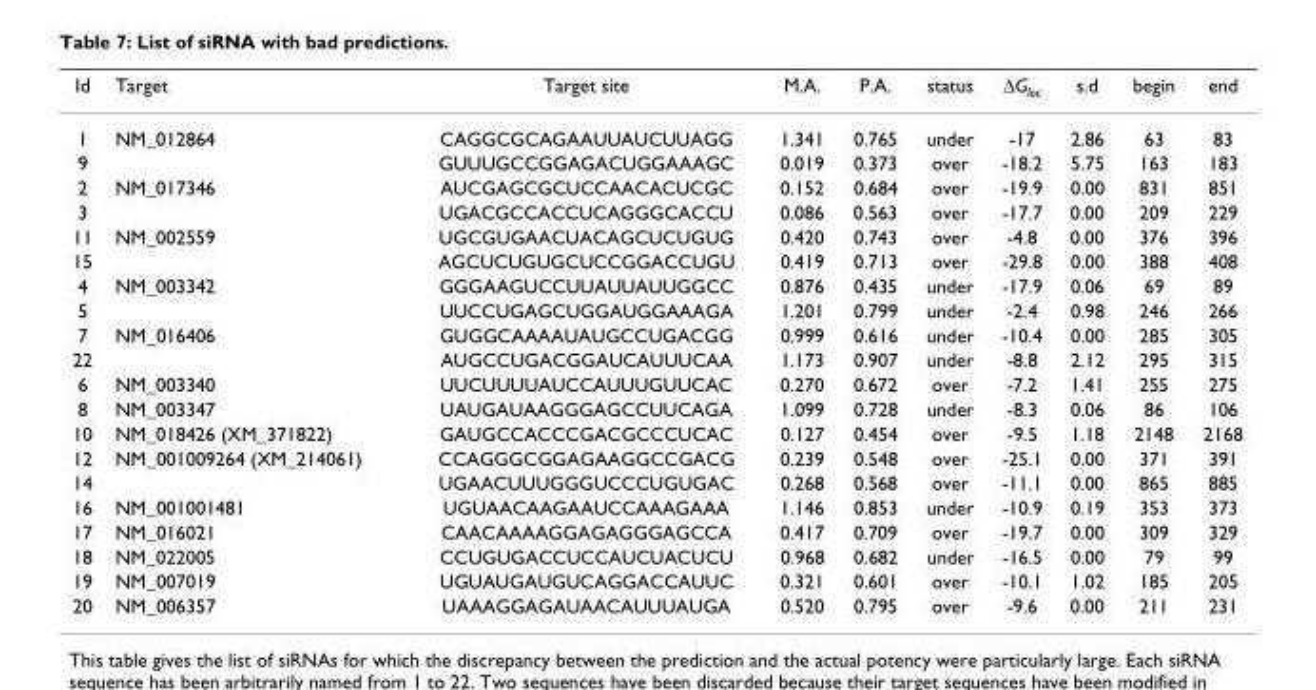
<table><thead><tr><td>Id</td><td>Target</td><td>Target site</td><td>M.A.</td><td>P.A.</td><td>status</td><td>∆Gloc</td><td>s.d</td><td>begin</td><td>end</td></tr></thead><tbody><tr><td>1</td><td>NM_012864</td><td>CAGGCGCAGAAUUAUCUUAGG</td><td>1.341</td><td>0.765</td><td>under</td><td>-17</td><td>2.86</td><td>63</td><td>83</td></tr><tr><td>9</td><td></td><td>GUUUGCCGGAGACUGGAAAGC</td><td>0.019</td><td>0.373</td><td>over</td><td>-18.2</td><td>5.75</td><td>163</td><td>183</td></tr><tr><td>2</td><td>NM_017346</td><td>AUCGAGCGCUCCAACACUCGC</td><td>0.152</td><td>0.684</td><td>over</td><td>-19.9</td><td>0.00</td><td>831</td><td>851</td></tr><tr><td>3</td><td></td><td>UGACGCCACCUCAGGGCACCU</td><td>0.086</td><td>0.563</td><td>over</td><td>-17.7</td><td>0.00</td><td>209</td><td>229</td></tr><tr><td>11</td><td>NM_002559</td><td>UGCGUGAACUACAGCUCUGUG</td><td>0.420</td><td>0.743</td><td>over</td><td>-4.8</td><td>0.00</td><td>376</td><td>396</td></tr><tr><td>15</td><td></td><td>AGCUCUGUGCUCCGGACCUGU</td><td>0.419</td><td>0.713</td><td>over</td><td>-29.8</td><td>0.00</td><td>388</td><td>408</td></tr><tr><td>4</td><td>NM_003342</td><td>GGGAAGUCCUUAUUAUUGGCC</td><td>0.876</td><td>0.435</td><td>under</td><td>-17.9</td><td>0.06</td><td>69</td><td>89</td></tr><tr><td>5</td><td></td><td>UUCCUGAGCUGGAUGGAAAGA</td><td>1.201</td><td>0.799</td><td>under</td><td>-2.4</td><td>0.98</td><td>246</td><td>266</td></tr><tr><td>7</td><td>NM_016406</td><td>GUGGCAAAAUAUGCCUGACGG</td><td>0.999</td><td>0.616</td><td>under</td><td>-10.4</td><td>0.00</td><td>285</td><td>305</td></tr><tr><td>22</td><td></td><td>AUGCCUGACGGAUCAUUUCAA</td><td>1.173</td><td>0.907</td><td>under</td><td>-8.8</td><td>2.12</td><td>295</td><td>315</td></tr><tr><td>6</td><td>NM_003340</td><td>UUCUUUUAUCCAUUUGUUCAC</td><td>0.270</td><td>0.672</td><td>over</td><td>-7.2</td><td>1.41</td><td>255</td><td>275</td></tr><tr><td>8</td><td>NM_003347</td><td>UAUGAUAAGGGAGCCUUCAGA</td><td>1.099</td><td>0.728</td><td>under</td><td>-8.3</td><td>0.06</td><td>86</td><td>106</td></tr><tr><td>10</td><td>NM_018426 (XM_371822)</td><td>GAUGCCACCCGACGCCCUCAC</td><td>0.127</td><td>0.454</td><td>over</td><td>-9.5</td><td>1.18</td><td>2148</td><td>2168</td></tr><tr><td>12</td><td>NM_001009264 (XM_214061)</td><td>CCAGGGCGGAGAAGGCCGACG</td><td>0.239</td><td>0.548</td><td>over</td><td>-25.1</td><td>0.00</td><td>371</td><td>391</td></tr><tr><td>14</td><td></td><td>UGAACUUUGGGUCCCUGUGAC</td><td>0.268</td><td>0.568</td><td>over</td><td>-11.1</td><td>0.00</td><td>865</td><td>885</td></tr><tr><td>16</td><td>NM_001001481</td><td>UGUAACAAGAAUCCAAAGAAA</td><td>1.146</td><td>0.853</td><td>under</td><td>-10.9</td><td>0.19</td><td>353</td><td>373</td></tr><tr><td>17</td><td>NM_016021</td><td>CAACAAAAGGAGAGGGAGCCA</td><td>0.417</td><td>0.709</td><td>over</td><td>-19.7</td><td>0.00</td><td>309</td><td>329</td></tr><tr><td>18</td><td>NM_022005</td><td>CCUGUGACCUCCAUCUACUCU</td><td>0.968</td><td>0.682</td><td>under</td><td>-16.5</td><td>0.00</td><td>79</td><td>99</td></tr><tr><td>19</td><td>NM_007019</td><td>UGUAUGAUGUCAGGACCAUUC</td><td>0.321</td><td>0.601</td><td>over</td><td>-10.1</td><td>1.02</td><td>185</td><td>205</td></tr><tr><td>20</td><td>NM_006357</td><td>UAAAGGAGAUAACAUUUAUGA</td><td>0.520</td><td>0.795</td><td>over</td><td>-9.6</td><td>0.00</td><td>211</td><td>231</td></tr></tbody></table>